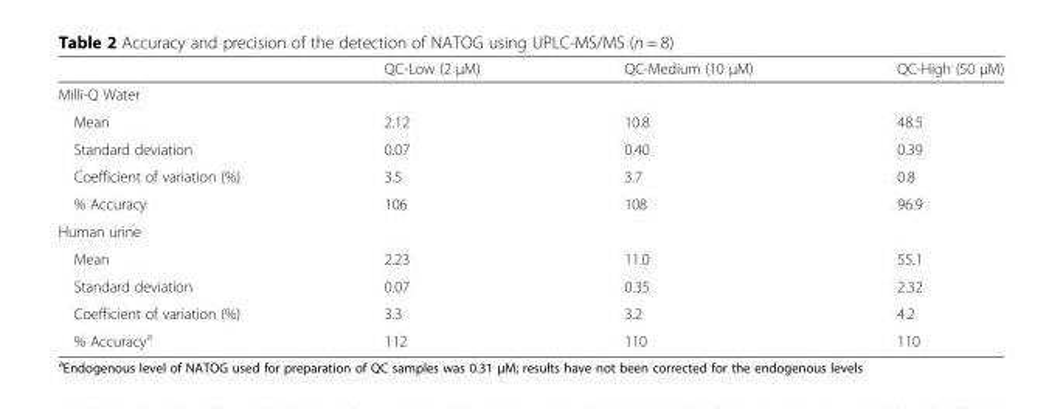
<table><thead><tr><td></td><td>QC-Low (2 μM)</td><td>QC-Medium (10 μM)</td><td>QC-High (50 μM)</td></tr></thead><tbody><tr><td colspan="4">Milli-Q Water</td></tr><tr><td>Mean</td><td>2.12</td><td>10.8</td><td>48.5</td></tr><tr><td>Standard deviation</td><td>0.07</td><td>0.40</td><td>0.39</td></tr><tr><td>Coefficient of variation (%)</td><td>3.5</td><td>3.7</td><td>0.8</td></tr><tr><td>% Accuracy</td><td>106</td><td>108</td><td>96.9</td></tr><tr><td colspan="4">Human urine</td></tr><tr><td>Mean</td><td>2.23</td><td>11.0</td><td>55.1</td></tr><tr><td>Standard deviation</td><td>0.07</td><td>0.35</td><td>2.32</td></tr><tr><td>Coefficient of variation (%)</td><td>3.3</td><td>3.2</td><td>4.2</td></tr><tr><td>% Accuracy<sup>a</sup></td><td>112</td><td>110</td><td>110</td></tr></tbody></table>